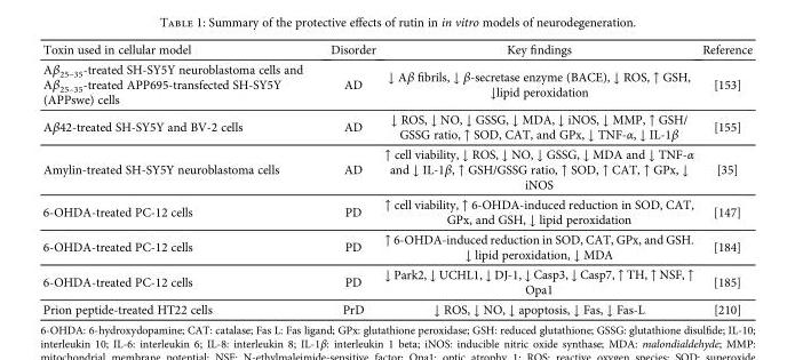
<table><thead><tr><td>Toxin used in cellular model</td><td>Disorder</td><td>Key findings</td><td>Reference</td></tr></thead><tbody><tr><td>Aβ<sub>25–35</sub>-treated SH-SY5Y neuroblastoma cells and Aβ<sub>25–35</sub>-treated APP695-transfected SH-SY5Y (APPswe) cells</td><td>AD</td><td>↓ Aβ fibrils, ↓ β-secretase enzyme (BACE), ↓ ROS, ↑ GSH, ↓lipid peroxidation</td><td>[153]</td></tr><tr><td>Aβ42-treated SH-SY5Y and BV-2 cells</td><td>AD</td><td>↓ ROS, ↓ NO, ↓ GSSG, ↓ MDA, ↓ iNOS, ↓ MMP, ↑ GSH/ GSSG ratio, ↑ SOD, CAT, and GPx, ↓ TNF-α, ↓ IL-1β</td><td>[155]</td></tr><tr><td>Amylin-treated SH-SY5Y neuroblastoma cells</td><td>AD</td><td>↑ cell viability, ↓ ROS, ↓ NO, ↓ GSSG, ↓ MDA and ↓ TNF-α and ↓ IL-1β, ↑ GSH/GSSG ratio, ↑ SOD, ↑ CAT, ↑ GPx, ↓ iNOS</td><td>[35]</td></tr><tr><td>6-OHDA-treated PC-12 cells</td><td>PD</td><td>↑ cell viability, ↑ 6-OHDA-induced reduction in SOD, CAT, GPx, and GSH, ↓ lipid peroxidation</td><td>[147]</td></tr><tr><td>6-OHDA-treated PC-12 cells</td><td>PD</td><td>↑ 6-OHDA-induced reduction in SOD, CAT, GPx, and GSH. ↓ lipid peroxidation, ↓ MDA</td><td>[184]</td></tr><tr><td>6-OHDA-treated PC-12 cells</td><td>PD</td><td>↓ Park2, ↓ UCHL1, ↓ DJ-1, ↓ Casp3, ↓ Casp7, ↑ TH, ↑ NSF, ↑ Opa1</td><td>[185]</td></tr><tr><td>Prion peptide-treated HT22 cells</td><td>PrD</td><td>↓ ROS, ↓ NO, ↓ apoptosis, ↓ Fas, ↓ Fas-L</td><td>[210]</td></tr></tbody></table>